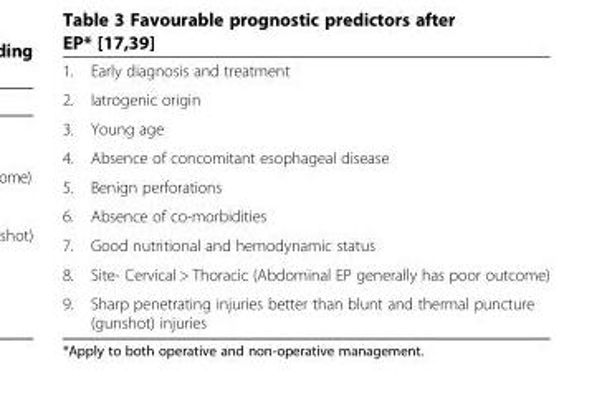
<table><tbody><tr><td>1.</td><td>Early diagnosis and treatment</td></tr><tr><td>2.</td><td>Iatrogenic origin</td></tr><tr><td>3.</td><td>Young age</td></tr><tr><td>4.</td><td>Absence of concomitant esophageal disease</td></tr><tr><td>5.</td><td>Benign perforations</td></tr><tr><td>6.</td><td>Absence of co-morbidities</td></tr><tr><td>7.</td><td>Good nutritional and hemodynamic status</td></tr><tr><td>8.</td><td>Site- Cervical &gt; Thoracic (Abdominal EP generally has poor outcome)</td></tr><tr><td>9.</td><td>Sharp penetrating injuries better than blunt and thermal puncture (gunshot) injuries</td></tr></tbody></table>